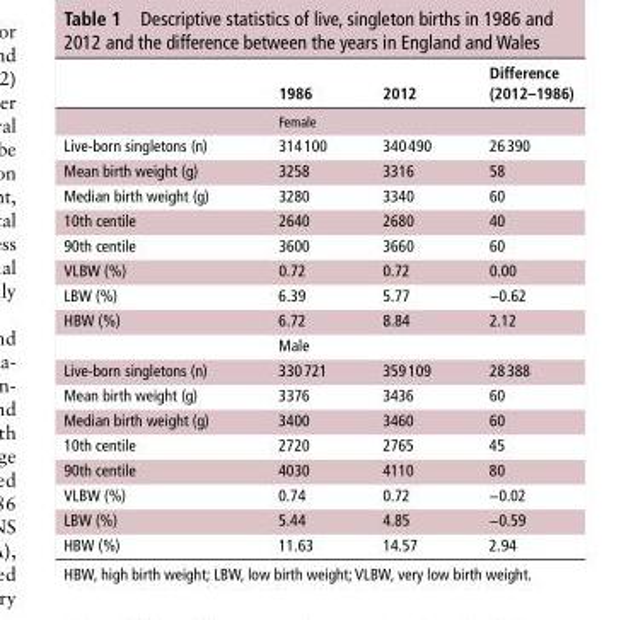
<table><thead><tr><td></td><td>1986</td><td>2012</td><td>difference (2012–1986)</td></tr></thead><tbody><tr><td></td><td colspan="3">Female</td></tr><tr><td>Live-born singletons (n)</td><td>314 100</td><td>340 490</td><td>26 390</td></tr><tr><td>Mean birth weight (g)</td><td>3258</td><td>3316</td><td>58</td></tr><tr><td>Median birth weight (g)</td><td>3280</td><td>3340</td><td>60</td></tr><tr><td>10th centile</td><td>2640</td><td>2680</td><td>40</td></tr><tr><td>90th centile</td><td>3600</td><td>3660</td><td>60</td></tr><tr><td>VLBW (%)</td><td>0.72</td><td>0.72</td><td>0.00</td></tr><tr><td>LBW (%)</td><td>6.39</td><td>5.77</td><td>−0.62</td></tr><tr><td rowspan="2">HBW (%)</td><td>6.72</td><td>8.84</td><td>2.12</td></tr><tr><td colspan="3">Male</td></tr><tr><td>Live-born singletons (n)</td><td>330 721</td><td>359 109</td><td>28 388</td></tr><tr><td>Mean birth weight (g)</td><td>3376</td><td>3436</td><td>60</td></tr><tr><td>Median birth weight (g)</td><td>3400</td><td>3460</td><td>60</td></tr><tr><td>10th centile</td><td>2720</td><td>2765</td><td>45</td></tr><tr><td>90th centile</td><td>4030</td><td>4110</td><td>80</td></tr><tr><td>VLBW (%)</td><td>0.74</td><td>0.72</td><td>−0.02</td></tr><tr><td>LBW (%)</td><td>5.44</td><td>4.85</td><td>−0.59</td></tr><tr><td>HBW (%)</td><td>11.63</td><td>14.57</td><td>2.94</td></tr></tbody></table>